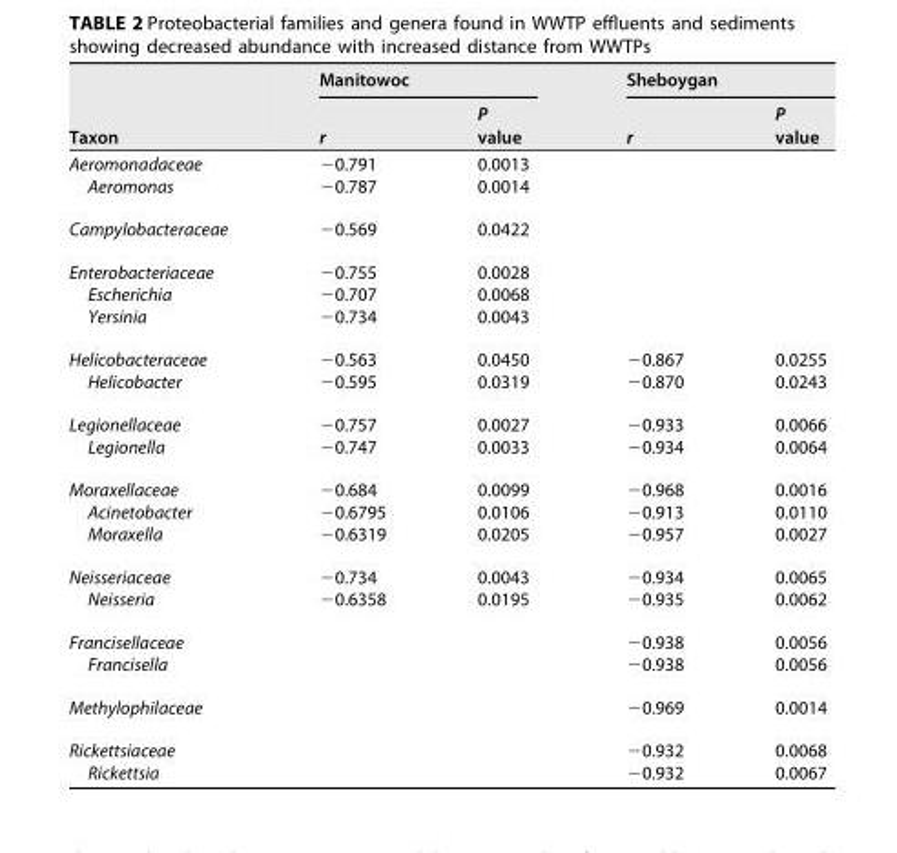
<table><thead><tr><td rowspan="2">Taxon</td><td colspan="2">Manitowoc</td><td colspan="2">Sheboygan</td></tr><tr><td>r</td><td>P value</td><td>r</td><td>P value</td></tr></thead><tbody><tr><td>Aeromonadaceae</td><td>−0.791</td><td>0.0013</td><td></td><td></td></tr><tr><td>Aeromonas</td><td>−0.787</td><td>0.0014</td><td></td><td></td></tr><tr><td>Campylobacteraceae</td><td>−0.569</td><td>0.0422</td><td></td><td></td></tr><tr><td>Enterobacteriaceae</td><td>−0.755</td><td>0.0028</td><td></td><td></td></tr><tr><td>Escherichia</td><td>−0.707</td><td>0.0068</td><td></td><td></td></tr><tr><td>Yersinia</td><td>−0.734</td><td>0.0043</td><td></td><td></td></tr><tr><td>Helicobacteraceae</td><td>−0.563</td><td>0.0450</td><td>−0.867</td><td>0.0255</td></tr><tr><td>Helicobacter</td><td>−0.595</td><td>0.0319</td><td>−0.870</td><td>0.0243</td></tr><tr><td>Legionellaceae</td><td>−0.757</td><td>0.0027</td><td>−0.933</td><td>0.0066</td></tr><tr><td>Legionella</td><td>−0.747</td><td>0.0033</td><td>−0.934</td><td>0.0064</td></tr><tr><td>Moraxellaceae</td><td>−0.684</td><td>0.0099</td><td>−0.968</td><td>0.0016</td></tr><tr><td>Acinetobacter</td><td>−0.6795</td><td>0.0106</td><td>−0.913</td><td>0.0110</td></tr><tr><td>Moraxella</td><td>−0.6319</td><td>0.0205</td><td>−0.957</td><td>0.0027</td></tr><tr><td>Neisseriaceae</td><td>−0.734</td><td>0.0043</td><td>−0.934</td><td>0.0065</td></tr><tr><td>Neisseria</td><td>−0.6358</td><td>0.0195</td><td>−0.935</td><td>0.0062</td></tr><tr><td>Francisellaceae</td><td></td><td></td><td>−0.938</td><td>0.0056</td></tr><tr><td>Francisella</td><td></td><td></td><td>−0.938</td><td>0.0056</td></tr><tr><td>Methylophilaceae</td><td></td><td></td><td>−0.969</td><td>0.0014</td></tr><tr><td>Rickettsiaceae</td><td></td><td></td><td>−0.932</td><td>0.0068</td></tr><tr><td>Rickettsia</td><td></td><td></td><td>−0.932</td><td>0.0067</td></tr></tbody></table>